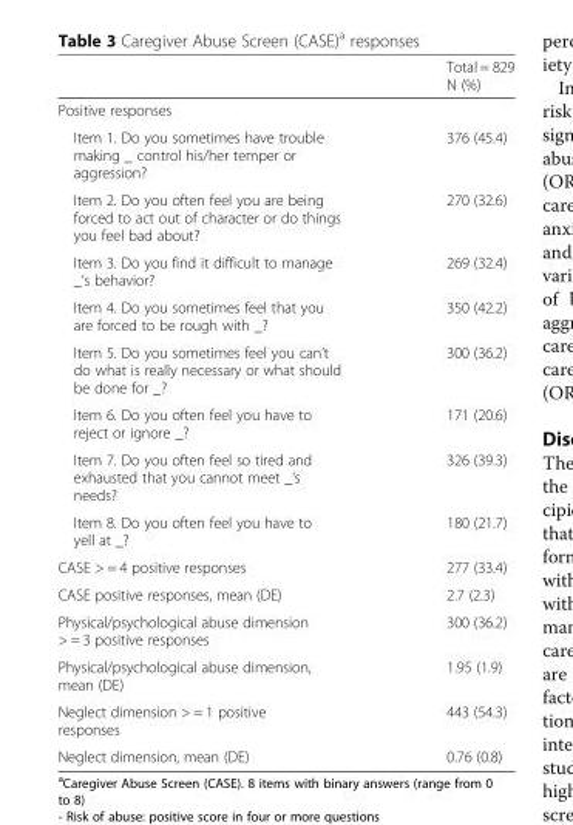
<table><thead><tr><td></td><td>Total = 829 N (%)</td></tr></thead><tbody><tr><td colspan="2">Positive responses</td></tr><tr><td>Item 1. Do you sometimes have trouble making _ control his/her temper or aggression?</td><td>376 (45.4)</td></tr><tr><td>Item 2. Do you often feel you are being forced to act out of character or do things you feel bad about?</td><td>270 (32.6)</td></tr><tr><td>Item 3. Do you find it difficult to manage _‘s behavior?</td><td>269 (32.4)</td></tr><tr><td>Item 4. Do you sometimes feel that you are forced to be rough with _?</td><td>350 (42.2)</td></tr><tr><td>Item 5. Do you sometimes feel you can’t do what is really necessary or what should be done for _?</td><td>300 (36.2)</td></tr><tr><td>Item 6. Do you often feel you have to reject or ignore _?</td><td>171 (20.6)</td></tr><tr><td>Item 7. Do you often feel so tired and exhausted that you cannot meet _‘s needs?</td><td>326 (39.3)</td></tr><tr><td>Item 8. Do you often feel you have to yell at _?</td><td>180 (21.7)</td></tr><tr><td>CASE &gt; = 4 positive responses</td><td>277 (33.4)</td></tr><tr><td>CASE positive responses, mean (DE)</td><td>2.7 (2.3)</td></tr><tr><td>Physical/psychological abuse dimension &gt; = 3 positive responses</td><td>300 (36.2)</td></tr><tr><td>Physical/psychological abuse dimension, mean (DE)</td><td>1.95 (1.9)</td></tr><tr><td>Neglect dimension &gt; = 1 positive responses</td><td>443 (54.3)</td></tr><tr><td>Neglect dimension, mean (DE)</td><td>0.76 (0.8)</td></tr></tbody></table>